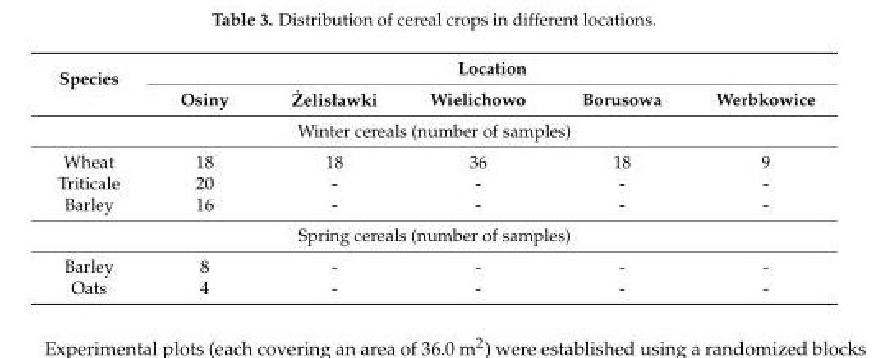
<table><thead><tr><td rowspan="2">Species</td><td colspan="5">Location</td></tr><tr><td>Osiny</td><td>˙Zelisławki</td><td>Wielichowo</td><td>Borusowa</td><td>Werbkowice</td></tr></thead><tbody><tr><td colspan="6">Winter cereals (number of samples)</td></tr><tr><td>Wheat</td><td>18</td><td>18</td><td>36</td><td>18</td><td>9</td></tr><tr><td>Triticale</td><td>20</td><td>-</td><td>-</td><td>-</td><td>-</td></tr><tr><td>Barley</td><td>16</td><td>-</td><td>-</td><td>-</td><td>-</td></tr><tr><td colspan="6">Spring cereals (number of samples)</td></tr><tr><td>Barley</td><td>8</td><td>-</td><td>-</td><td>-</td><td>-</td></tr><tr><td>Oats</td><td>4</td><td>-</td><td>-</td><td>-</td><td>-</td></tr></tbody></table>